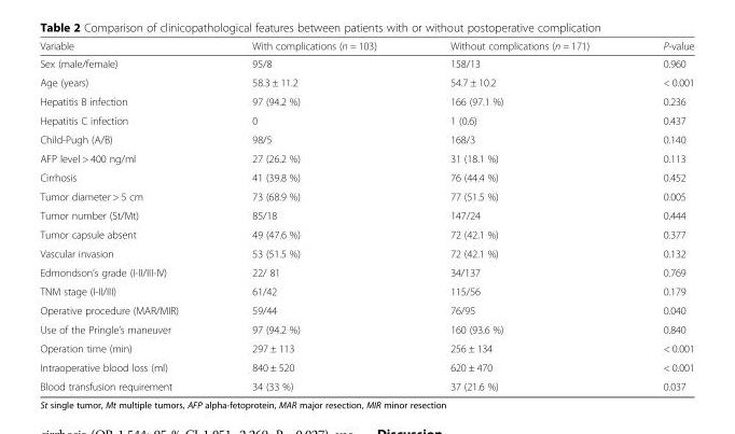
<table><thead><tr><td>Variable</td><td>With complications (n = 103)</td><td>Without complications (n = 171)</td><td>P-value</td></tr></thead><tbody><tr><td>Sex (male/female)</td><td>95/8</td><td>158/13</td><td>0.960</td></tr><tr><td>Age (years)</td><td>58.3 ± 11.2</td><td>54.7 ± 10.2</td><td>&lt; 0.001</td></tr><tr><td>Hepatitis B infection</td><td>97 (94.2 %)</td><td>166 (97.1 %)</td><td>0.236</td></tr><tr><td>Hepatitis C infection</td><td>0</td><td>1 (0.6)</td><td>0.437</td></tr><tr><td>Child-Pugh (A/B)</td><td>98/5</td><td>168/3</td><td>0.140</td></tr><tr><td>AFP level &gt; 400 ng/ml</td><td>27 (26.2 %)</td><td>31 (18.1 %)</td><td>0.113</td></tr><tr><td>Cirrhosis</td><td>41 (39.8 %)</td><td>76 (44.4 %)</td><td>0.452</td></tr><tr><td>Tumor diameter &gt; 5 cm</td><td>73 (68.9 %)</td><td>77 (51.5 %)</td><td>0.005</td></tr><tr><td>Tumor number (St/Mt)</td><td>85/18</td><td>147/24</td><td>0.444</td></tr><tr><td>Tumor capsule absent</td><td>49 (47.6 %)</td><td>72 (42.1 %)</td><td>0.377</td></tr><tr><td>Vascular invasion</td><td>53 (51.5 %)</td><td>72 (42.1 %)</td><td>0.132</td></tr><tr><td>Edmondson’s grade (I-II/III-IV)</td><td>22/ 81</td><td>34/137</td><td>0.769</td></tr><tr><td>TNM stage (I-II/III)</td><td>61/42</td><td>115/56</td><td>0.179</td></tr><tr><td>Operative procedure (MAR/MIR)</td><td>59/44</td><td>76/95</td><td>0.040</td></tr><tr><td>Use of the Pringle’s maneuver</td><td>97 (94.2 %)</td><td>160 (93.6 %)</td><td>0.840</td></tr><tr><td>Operation time (min)</td><td>297 ± 113</td><td>256 ± 134</td><td>&lt; 0.001</td></tr><tr><td>Intraoperative blood loss (ml)</td><td>840 ± 520</td><td>620 ± 470</td><td>&lt; 0.001</td></tr><tr><td>Blood transfusion requirement</td><td>34 (33 %)</td><td>37 (21.6 %)</td><td>0.037</td></tr></tbody></table>